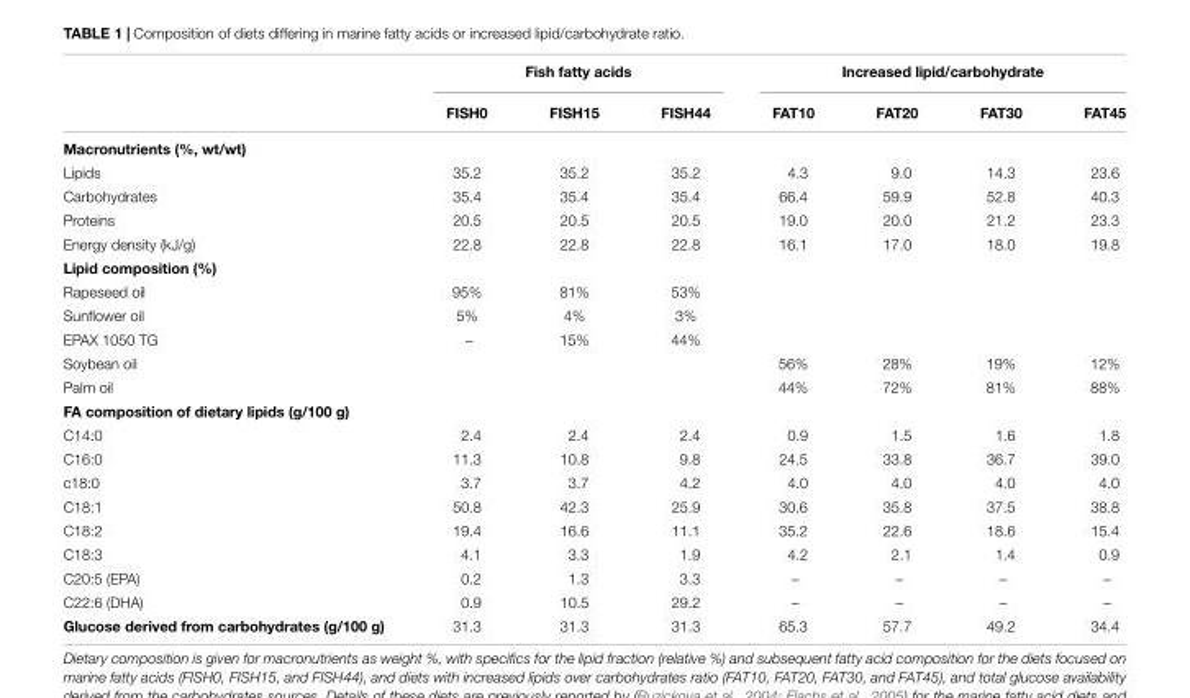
<table><thead><tr><td rowspan="2"></td><td colspan="3">Fish fatty acids</td><td colspan="4">Increased lipid/carbohydrate</td></tr><tr><td>FISH0</td><td>FISH15</td><td>FISH44</td><td>FAT10</td><td>FAT20</td><td>FAT30</td><td>FAT45</td></tr></thead><tbody><tr><td colspan="8">Macronutrients (%, wt/wt)</td></tr><tr><td>Lipids</td><td>35.2</td><td>35.2</td><td>35.2</td><td>4.3</td><td>9.0</td><td>14.3</td><td>23.6</td></tr><tr><td>Carbohydrates</td><td>35.4</td><td>35.4</td><td>35.4</td><td>66.4</td><td>59.9</td><td>52.8</td><td>40.3</td></tr><tr><td>Proteins</td><td>20.5</td><td>20.5</td><td>20.5</td><td>19.0</td><td>20.0</td><td>21.2</td><td>23.3</td></tr><tr><td>Energy density (kJ/g)</td><td>22.8</td><td>22.8</td><td>22.8</td><td>16.1</td><td>17.0</td><td>18.0</td><td>19.8</td></tr><tr><td colspan="8">Lipid composition (%)</td></tr><tr><td>Rapeseed oil</td><td>95%</td><td>81%</td><td>53%</td><td></td><td></td><td></td><td></td></tr><tr><td>Sunflower oil</td><td>5%</td><td>4%</td><td>3%</td><td></td><td></td><td></td><td></td></tr><tr><td>EPAX 1050 TG</td><td>–</td><td>15%</td><td>44%</td><td></td><td></td><td></td><td></td></tr><tr><td>Soybean oil</td><td></td><td></td><td></td><td>56%</td><td>28%</td><td>19%</td><td>12%</td></tr><tr><td>Palm oil</td><td></td><td></td><td></td><td>44%</td><td>72%</td><td>81%</td><td>88%</td></tr><tr><td colspan="8">FA composition of dietary lipids (g/100 g)</td></tr><tr><td>C14:0</td><td>2.4</td><td>2.4</td><td>2.4</td><td>0.9</td><td>1.5</td><td>1.6</td><td>1.8</td></tr><tr><td>C16:0</td><td>11.3</td><td>10.8</td><td>9.8</td><td>24.5</td><td>33.8</td><td>36.7</td><td>39.0</td></tr><tr><td>c18:0</td><td>3.7</td><td>3.7</td><td>4.2</td><td>4.0</td><td>4.0</td><td>4.0</td><td>4.0</td></tr><tr><td>C18:1</td><td>50.8</td><td>42.3</td><td>25.9</td><td>30.6</td><td>35.8</td><td>37.5</td><td>38.8</td></tr><tr><td>C18:2</td><td>19.4</td><td>16.6</td><td>11.1</td><td>35.2</td><td>22.6</td><td>18.6</td><td>15.4</td></tr><tr><td>C18:3</td><td>4.1</td><td>3.3</td><td>1.9</td><td>4.2</td><td>2.1</td><td>1.4</td><td>0.9</td></tr><tr><td>C20:5 (EPA)</td><td>0.2</td><td>1.3</td><td>3.3</td><td>–</td><td>–</td><td>–</td><td>–</td></tr><tr><td>C22:6 (DHA)</td><td>0.9</td><td>10.5</td><td>29.2</td><td>–</td><td>–</td><td>–</td><td>–</td></tr><tr><td>Glucose derived from carbohydrates (g/100 g)</td><td>31.3</td><td>31.3</td><td>31.3</td><td>65.3</td><td>57.7</td><td>49.2</td><td>34.4</td></tr></tbody></table>